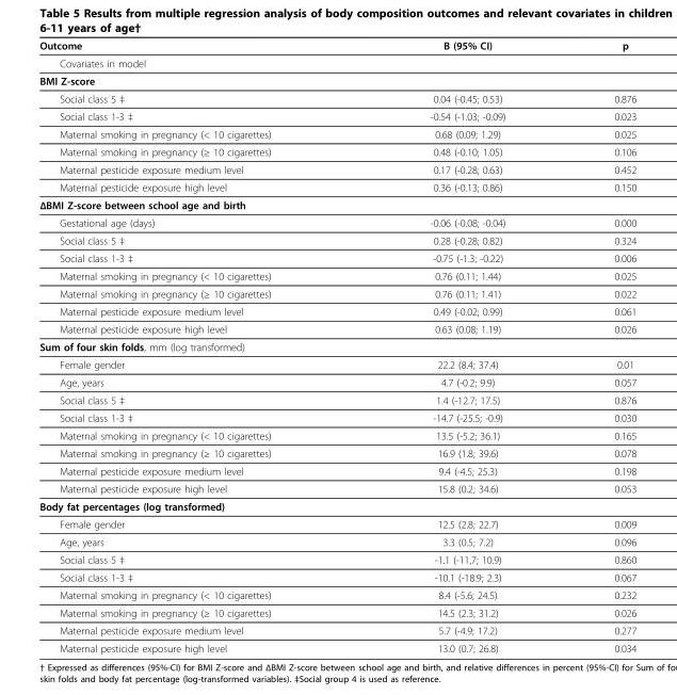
<table><thead><tr><td>Outcome</td><td>Β (95% CI)</td><td>p</td></tr></thead><tbody><tr><td colspan="3">Covariates in model</td></tr><tr><td colspan="3">BMI Z-score</td></tr><tr><td>Social class 5 ‡</td><td>0.04 (-0.45; 0.53)</td><td>0.876</td></tr><tr><td>Social class 1-3 ‡</td><td>-0.54 (-1.03; -0.09)</td><td>0.023</td></tr><tr><td>Maternal smoking in pregnancy (&lt; 10 cigarettes)</td><td>0.68 (0.09; 1.29)</td><td>0.025</td></tr><tr><td>Maternal smoking in pregnancy (≥ 10 cigarettes)</td><td>0.48 (-0.10; 1.05)</td><td>0.106</td></tr><tr><td>Maternal pesticide exposure medium level</td><td>0.17 (-0.28; 0.63)</td><td>0.452</td></tr><tr><td>Maternal pesticide exposure high level</td><td>0.36 (-0.13; 0.86)</td><td>0.150</td></tr><tr><td colspan="3">ΔBMI Z-score between school age and birth</td></tr><tr><td>Gestational age (days)</td><td>-0.06 (-0.08; -0.04)</td><td>0.000</td></tr><tr><td>Social class 5 ‡</td><td>0.28 (-0.28; 0.82)</td><td>0.324</td></tr><tr><td>Social class 1-3 ‡</td><td>-0.75 (-1.3; -0.22)</td><td>0.006</td></tr><tr><td>Maternal smoking in pregnancy (&lt; 10 cigarettes)</td><td>0.76 (0.11; 1.44)</td><td>0.025</td></tr><tr><td>Maternal smoking in pregnancy (≥ 10 cigarettes)</td><td>0.76 (0.11; 1.41)</td><td>0.022</td></tr><tr><td>Maternal pesticide exposure medium level</td><td>0.49 (-0.02; 0.99)</td><td>0.061</td></tr><tr><td>Maternal pesticide exposure high level</td><td>0.63 (0.08; 1.19)</td><td>0.026</td></tr><tr><td colspan="3">Sum of four skin folds, mm (log transformed)</td></tr><tr><td>Female gender</td><td>22.2 (8.4; 37.4)</td><td>0.01</td></tr><tr><td>Age, years</td><td>4.7 (-0.2; 9.9)</td><td>0.057</td></tr><tr><td>Social class 5 ‡</td><td>1.4 (-12.7; 17.5)</td><td>0.876</td></tr><tr><td>Social class 1-3 ‡</td><td>-14.7 (-25.5; -0.9)</td><td>0.030</td></tr><tr><td>Maternal smoking in pregnancy (&lt; 10 cigarettes)</td><td>13.5 (-5.2; 36.1)</td><td>0.165</td></tr><tr><td>Maternal smoking in pregnancy (≥ 10 cigarettes)</td><td>16.9 (1.8; 39.6)</td><td>0.078</td></tr><tr><td>Maternal pesticide exposure medium level</td><td>9.4 (-4.5; 25.3)</td><td>0.198</td></tr><tr><td>Maternal pesticide exposure high level</td><td>15.8 (0.2; 34.6)</td><td>0.053</td></tr><tr><td colspan="3">Body fat percentages (log transformed)</td></tr><tr><td>Female gender</td><td>12.5 (2.8; 22.7)</td><td>0.009</td></tr><tr><td>Age, years</td><td>3.3 (0.5; 7.2)</td><td>0.096</td></tr><tr><td>Social class 5 ‡</td><td>-1.1 (-11,7; 10.9)</td><td>0.860</td></tr><tr><td>Social class 1-3 ‡</td><td>-10.1 (-18.9; 2.3)</td><td>0.067</td></tr><tr><td>Maternal smoking in pregnancy (&lt; 10 cigarettes)</td><td>8.4 (-5.6; 24.5)</td><td>0.232</td></tr><tr><td>Maternal smoking in pregnancy (≥ 10 cigarettes)</td><td>14.5 (2.3; 31.2)</td><td>0.026</td></tr><tr><td>Maternal pesticide exposure medium level</td><td>5.7 (-4.9; 17.2)</td><td>0.277</td></tr><tr><td>Maternal pesticide exposure high level</td><td>13.0 (0.7; 26.8)</td><td>0.034</td></tr></tbody></table>